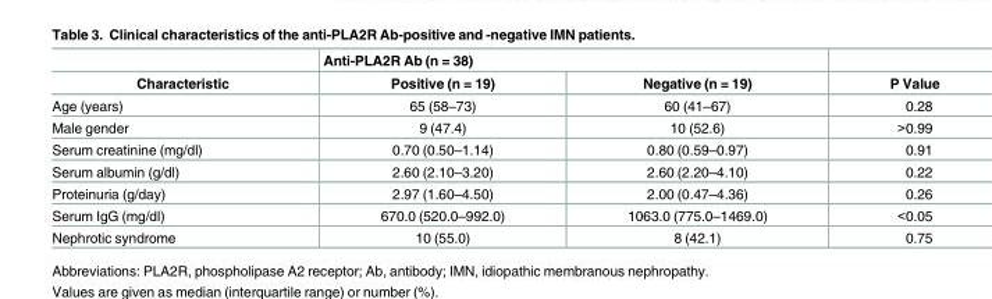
<table><thead><tr><td rowspan="2">Characteristic</td><td colspan="2">Anti-PLA2R Ab (n = 38)</td><td rowspan="2">P Value</td></tr><tr><td>Positive (n = 19)</td><td>Negative (n = 19)</td></tr></thead><tbody><tr><td>Age (years)</td><td>65 (58–73)</td><td>60 (41–67)</td><td>0.28</td></tr><tr><td>Male gender</td><td>9 (47.4)</td><td>10 (52.6)</td><td>&gt;0.99</td></tr><tr><td>Serum creatinine (mg/dl)</td><td>0.70 (0.50–1.14)</td><td>0.80 (0.59–0.97)</td><td>0.91</td></tr><tr><td>Serum albumin (g/dl)</td><td>2.60 (2.10–3.20)</td><td>2.60 (2.20–4.10)</td><td>0.22</td></tr><tr><td>Proteinuria (g/day)</td><td>2.97 (1.60–4.50)</td><td>2.00 (0.47–4.36)</td><td>0.26</td></tr><tr><td>Serum IgG (mg/dl)</td><td>670.0 (520.0–992.0)</td><td>1063.0 (775.0–1469.0)</td><td>&lt;0.05</td></tr><tr><td>Nephrotic syndrome</td><td>10 (55.0)</td><td>8 (42.1)</td><td>0.75</td></tr></tbody></table>